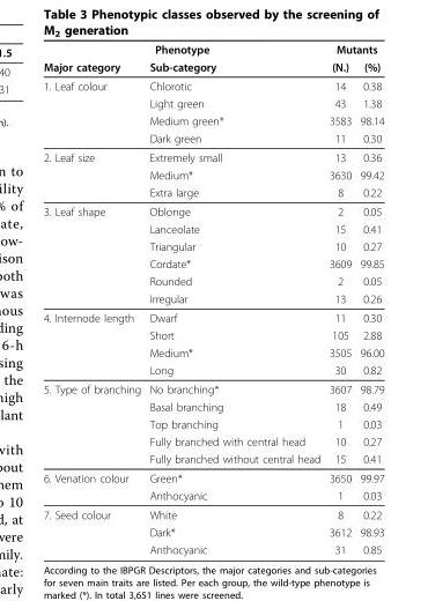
<table><thead><tr><td colspan="2">Phenotype</td><td colspan="2">Mutants</td></tr><tr><td>Major category</td><td>Sub-category</td><td>(N.)</td><td>(%)</td></tr></thead><tbody><tr><td rowspan="4">1. Leaf colour</td><td>Chlorotic</td><td>14</td><td>0.38</td></tr><tr><td>Light green</td><td>43</td><td>1.38</td></tr><tr><td>Medium green*</td><td>3583</td><td>98.14</td></tr><tr><td>Dark green</td><td>11</td><td>0.30</td></tr><tr><td rowspan="3">2. Leaf size</td><td>Extremely small</td><td>13</td><td>0.36</td></tr><tr><td>Medium*</td><td>3630</td><td>99.42</td></tr><tr><td>Extra large</td><td>8</td><td>0.22</td></tr><tr><td rowspan="6">3. Leaf shape</td><td>Oblonge</td><td>2</td><td>0.05</td></tr><tr><td>Lanceolate</td><td>15</td><td>0.41</td></tr><tr><td>Triangular</td><td>10</td><td>0.27</td></tr><tr><td>Cordate*</td><td>3609</td><td>99.85</td></tr><tr><td>Rounded</td><td>2</td><td>0.05</td></tr><tr><td>Irregular</td><td>13</td><td>0.26</td></tr><tr><td rowspan="4">4. Internode length</td><td>Dwarf</td><td>11</td><td>0.30</td></tr><tr><td>Short</td><td>105</td><td>2.88</td></tr><tr><td>Medium*</td><td>3505</td><td>96.00</td></tr><tr><td>Long</td><td>30</td><td>0.82</td></tr><tr><td rowspan="5">5. Type of branching</td><td>No branching*</td><td>3607</td><td>98.79</td></tr><tr><td>Basal branching</td><td>18</td><td>0.49</td></tr><tr><td>Top branching</td><td>1</td><td>0.03</td></tr><tr><td>Fully branched with central head</td><td>10</td><td>0.27</td></tr><tr><td>Fully branched without central head</td><td>15</td><td>0.41</td></tr><tr><td rowspan="2">6. Venation colour</td><td>Green*</td><td>3650</td><td>99.97</td></tr><tr><td>Anthocyanic</td><td>1</td><td>0.03</td></tr><tr><td rowspan="3">7. Seed colour</td><td>White</td><td>8</td><td>0.22</td></tr><tr><td>Dark*</td><td>3612</td><td>98.93</td></tr><tr><td>Anthocyanic</td><td>31</td><td>0.85</td></tr></tbody></table>